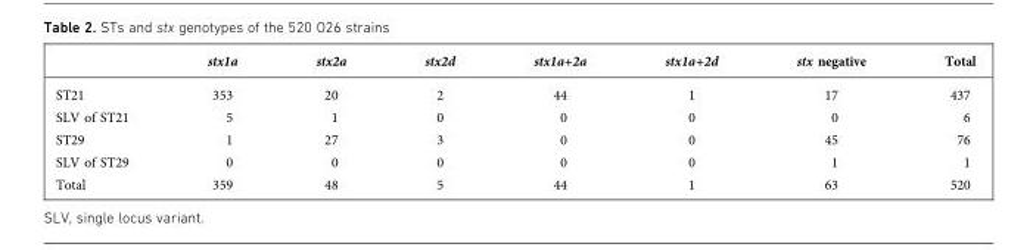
<table><thead><tr><td></td><td>stx1a</td><td>stx2a</td><td>stx2d</td><td>stx1a+2a</td><td>stx1a+2d</td><td>stx negative</td><td>Total</td></tr></thead><tbody><tr><td>ST21</td><td>353</td><td>20</td><td>2</td><td>44</td><td>1</td><td>17</td><td>437</td></tr><tr><td>SLV of ST21</td><td>5</td><td>1</td><td>0</td><td>0</td><td>0</td><td>0</td><td>6</td></tr><tr><td>ST29</td><td>1</td><td>27</td><td>3</td><td>0</td><td>0</td><td>45</td><td>76</td></tr><tr><td>SLV of ST29</td><td>0</td><td>0</td><td>0</td><td>0</td><td>0</td><td>1</td><td>1</td></tr><tr><td>Total</td><td>359</td><td>48</td><td>5</td><td>44</td><td>1</td><td>63</td><td>520</td></tr></tbody></table>